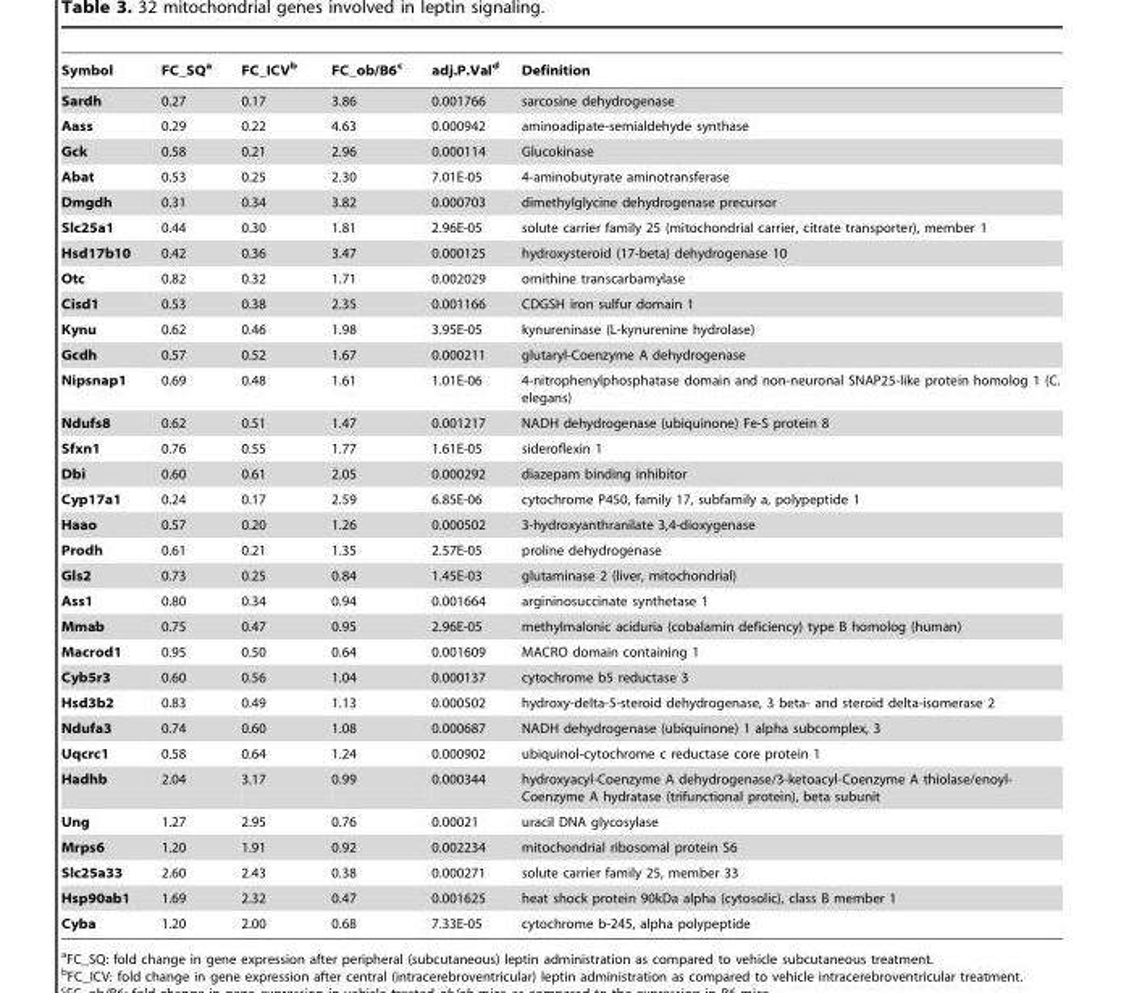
<table><thead><tr><td>Symbol</td><td>FC_SQ<sup>a</sup></td><td>FC_ICV<sup>b</sup></td><td>FC_ob/B6<sup>c</sup></td><td>adj.P.Val<sup>d</sup></td><td>Definition</td></tr></thead><tbody><tr><td>Sardh</td><td>0.27</td><td>0.17</td><td>3.86</td><td>0.001766</td><td>sarcosine dehydrogenase</td></tr><tr><td>Aass</td><td>0.29</td><td>0.22</td><td>4.63</td><td>0.000942</td><td>aminoadipate-semialdehyde synthase</td></tr><tr><td>Gck</td><td>0.58</td><td>0.21</td><td>2.96</td><td>0.000114</td><td>Glucokinase</td></tr><tr><td>Abat</td><td>0.53</td><td>0.25</td><td>2.30</td><td>7.01E-05</td><td>4-aminobutyrate aminotransferase</td></tr><tr><td>Dmgdh</td><td>0.31</td><td>0.34</td><td>3.82</td><td>0.000703</td><td>dimethylglycine dehydrogenase precursor</td></tr><tr><td>Slc25a1</td><td>0.44</td><td>0.30</td><td>1.81</td><td>2.96E-05</td><td>solute carrier family 25 (mitochondrial carrier, citrate transporter), member 1</td></tr><tr><td>Hsd17b10</td><td>0.42</td><td>0.36</td><td>3.47</td><td>0.000125</td><td>hydroxysteroid (17-beta) dehydrogenase 10</td></tr><tr><td>Otc</td><td>0.82</td><td>0.32</td><td>1.71</td><td>0.002029</td><td>ornithine transcarbamylase</td></tr><tr><td>Cisd1</td><td>0.53</td><td>0.38</td><td>2.35</td><td>0.001166</td><td>CDGSH iron sulfur domain 1</td></tr><tr><td>Kynu</td><td>0.62</td><td>0.46</td><td>1.98</td><td>3.95E-05</td><td>kynureninase (L-kynurenine hydrolase)</td></tr><tr><td>Gcdh</td><td>0.57</td><td>0.52</td><td>1.67</td><td>0.000211</td><td>glutaryl-Coenzyme A dehydrogenase</td></tr><tr><td>Nipsnap1</td><td>0.69</td><td>0.48</td><td>1.61</td><td>1.01E-06</td><td>4-nitrophenylphosphatase domain and non-neuronal SNAP25-like protein homolog 1 (C. elegans)</td></tr><tr><td>Ndufs8</td><td>0.62</td><td>0.51</td><td>1.47</td><td>0.001217</td><td>NADH dehydrogenase (ubiquinone) Fe-S protein 8</td></tr><tr><td>Sfxn1</td><td>0.76</td><td>0.55</td><td>1.77</td><td>1.61E-05</td><td>sideroflexin 1</td></tr><tr><td>Dbi</td><td>0.60</td><td>0.61</td><td>2.05</td><td>0.000292</td><td>diazepam binding inhibitor</td></tr><tr><td>Cyp17a1</td><td>0.24</td><td>0.17</td><td>2.59</td><td>6.85E-06</td><td>cytochrome P450, family 17, subfamily a, polypeptide 1</td></tr><tr><td>Haao</td><td>0.57</td><td>0.20</td><td>1.26</td><td>0.000502</td><td>3-hydroxyanthranilate 3,4-dioxygenase</td></tr><tr><td>Prodh</td><td>0.61</td><td>0.21</td><td>1.35</td><td>2.57E-05</td><td>proline dehydrogenase</td></tr><tr><td>Gls2</td><td>0.73</td><td>0.25</td><td>0.84</td><td>1.45E-03</td><td>glutaminase 2 (liver, mitochondrial)</td></tr><tr><td>Ass1</td><td>0.80</td><td>0.34</td><td>0.94</td><td>0.001664</td><td>argininosuccinate synthetase 1</td></tr><tr><td>Mmab</td><td>0.75</td><td>0.47</td><td>0.95</td><td>2.96E-05</td><td>methylmalonic aciduria (cobalamin deficiency) type B homolog (human)</td></tr><tr><td>Macrod1</td><td>0.95</td><td>0.50</td><td>0.64</td><td>0.001609</td><td>MACRO domain containing 1</td></tr><tr><td>Cyb5r3</td><td>0.60</td><td>0.56</td><td>1.04</td><td>0.000137</td><td>cytochrome b5 reductase 3</td></tr><tr><td>Hsd3b2</td><td>0.83</td><td>0.49</td><td>1.13</td><td>0.000502</td><td>hydroxy-delta-5-steroid dehydrogenase, 3 beta- and steroid delta-isomerase 2</td></tr><tr><td>Ndufa3</td><td>0.74</td><td>0.60</td><td>1.08</td><td>0.000687</td><td>NADH dehydrogenase (ubiquinone) 1 alpha subcomplex, 3</td></tr><tr><td>Uqcrc1</td><td>0.58</td><td>0.64</td><td>1.24</td><td>0.000902</td><td>ubiquinol-cytochrome c reductase core protein 1</td></tr><tr><td>Hadhb</td><td>2.04</td><td>3.17</td><td>0.99</td><td>0.000344</td><td>hydroxyacyl-Coenzyme A dehydrogenase/3-ketoacyl-Coenzyme A thiolase/enoyl- Coenzyme A hydratase (trifunctional protein), beta subunit</td></tr><tr><td>Ung</td><td>1.27</td><td>2.95</td><td>0.76</td><td>0.00021</td><td>uracil DNA glycosylase</td></tr><tr><td>Mrps6</td><td>1.20</td><td>1.91</td><td>0.92</td><td>0.002234</td><td>mitochondrial ribosomal protein S6</td></tr><tr><td>Slc25a33</td><td>2.60</td><td>2.43</td><td>0.38</td><td>0.000271</td><td>solute carrier family 25, member 33</td></tr><tr><td>Hsp90ab1</td><td>1.69</td><td>2.32</td><td>0.47</td><td>0.001625</td><td>heat shock protein 90kDa alpha (cytosolic), class B member 1</td></tr><tr><td>Cyba</td><td>1.20</td><td>2.00</td><td>0.68</td><td>7.33E-05</td><td>cytochrome b-245, alpha polypeptide</td></tr></tbody></table>